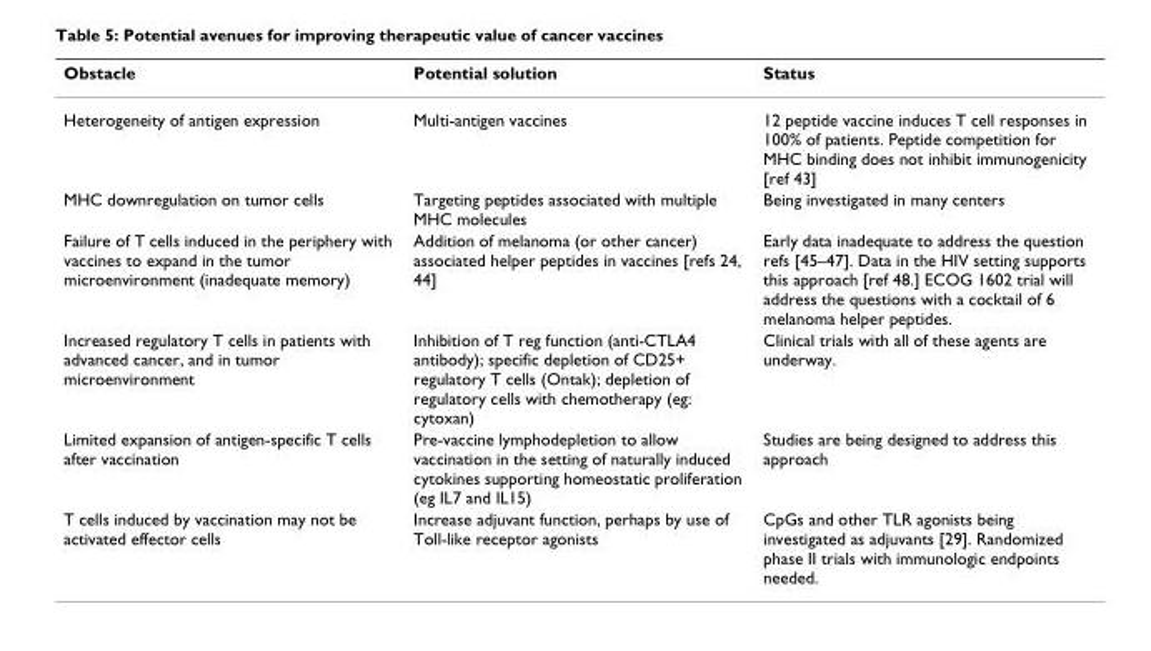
<table><thead><tr><td>Obstacle</td><td>Potential solution</td><td>Status</td></tr></thead><tbody><tr><td>Heterogeneity of antigen expression</td><td>Multi-antigen vaccines</td><td>12 peptide vaccine induces T cell responses in 100% of patients. Peptide competition for MHC binding does not inhibit immunogenicity [ref 43]</td></tr><tr><td>MHC downregulation on tumor cells</td><td>Targeting peptides associated with multiple MHC molecules</td><td>Being investigated in many centers</td></tr><tr><td>Failure of T cells induced in the periphery with vaccines to expand in the tumor microenvironment (inadequate memory)</td><td>Addition of melanoma (or other cancer) associated helper peptides in vaccines [refs 24, 44]</td><td>Early data inadequate to address the question refs [45–47]. Data in the HIV setting supports this approach [ref 48.] ECOG 1602 trial will address the questions with a cocktail of 6 melanoma helper peptides.</td></tr><tr><td>Increased regulatory T cells in patients with advanced cancer, and in tumor microenvironment</td><td>Inhibition of T reg function (anti-CTLA4 antibody); specific depletion of CD25+ regulatory T cells (Ontak); depletion of regulatory cells with chemotherapy (eg: cytoxan)</td><td>Clinical trials with all of these agents are underway.</td></tr><tr><td>Limited expansion of antigen-specific T cells after vaccination</td><td>Pre-vaccine lymphodepletion to allow vaccination in the setting of naturally induced cytokines supporting homeostatic proliferation (eg IL7 and IL15)</td><td>Studies are being designed to address this approach</td></tr><tr><td>T cells induced by vaccination may not be activated effector cells</td><td>Increase adjuvant function, perhaps by use of Toll-like receptor agonists</td><td>CpGs and other TLR agonists being investigated as adjuvants [29]. Randomized phase II trials with immunologic endpoints needed.</td></tr></tbody></table>